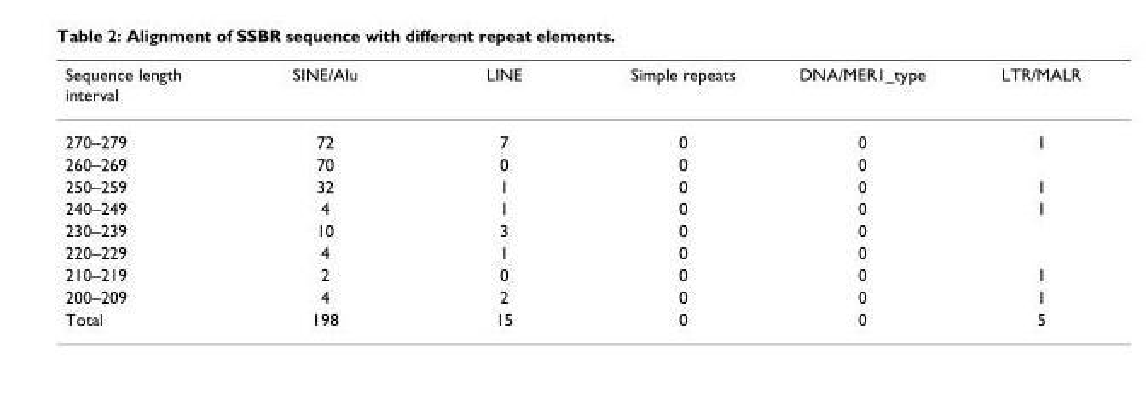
<table><thead><tr><td>Sequence length interval</td><td>SINE/Alu</td><td>LINE</td><td>Simple repeats</td><td>DNA/MER1_type</td><td>LTR/MALR</td></tr></thead><tbody><tr><td>270–279</td><td>72</td><td>7</td><td>0</td><td>0</td><td>1</td></tr><tr><td>260–269</td><td>70</td><td>0</td><td>0</td><td>0</td><td></td></tr><tr><td>250–259</td><td>32</td><td>1</td><td>0</td><td>0</td><td>1</td></tr><tr><td>240–249</td><td>4</td><td>1</td><td>0</td><td>0</td><td>1</td></tr><tr><td>230–239</td><td>10</td><td>3</td><td>0</td><td>0</td><td></td></tr><tr><td>220–229</td><td>4</td><td>1</td><td>0</td><td>0</td><td></td></tr><tr><td>210–219</td><td>2</td><td>0</td><td>0</td><td>0</td><td>1</td></tr><tr><td>200–209</td><td>4</td><td>2</td><td>0</td><td>0</td><td>1</td></tr><tr><td>Total</td><td>198</td><td>15</td><td>0</td><td>0</td><td>5</td></tr></tbody></table>